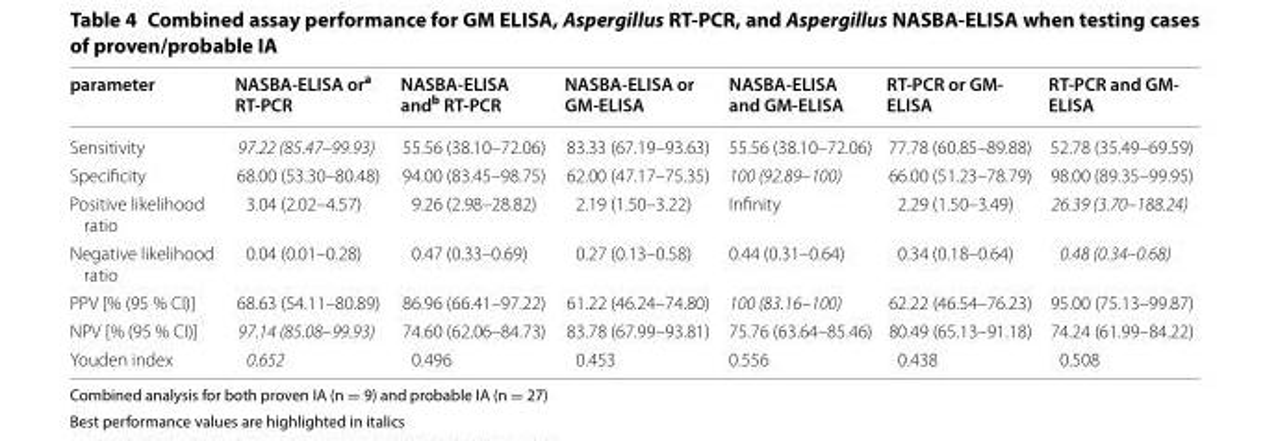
<table><thead><tr><td>parameter</td><td>NASBA‑ELISA or<sup>a</sup> RT‑PCR</td><td>NASBA‑ELISA and<sup>b</sup> RT‑PCR</td><td>NASBA‑ELISA or GM‑ELISA</td><td>NASBA‑ELISA and GM‑ELISA</td><td>RT‑PCR or GM‑ ELISA</td><td>RT‑PCR and GM‑ ELISA</td></tr></thead><tbody><tr><td>Sensitivity</td><td>97.22 (85.47–99.93)</td><td>55.56 (38.10–72.06)</td><td>83.33 (67.19–93.63)</td><td>55.56 (38.10–72.06)</td><td>77.78 (60.85–89.88)</td><td>52.78 (35.49–69.59)</td></tr><tr><td>Specificity</td><td>68.00 (53.30–80.48)</td><td>94.00 (83.45–98.75)</td><td>62.00 (47.17–75.35)</td><td>100 (92.89–100)</td><td>66.00 (51.23–78.79)</td><td>98.00 (89.35–99.95)</td></tr><tr><td>Positive likelihood ratio</td><td>3.04 (2.02–4.57)</td><td>9.26 (2.98–28.82)</td><td>2.19 (1.50–3.22)</td><td>Infinity</td><td>2.29 (1.50–3.49)</td><td>26.39 (3.70–188.24)</td></tr><tr><td>Negative likelihood ratio</td><td>0.04 (0.01–0.28)</td><td>0.47 (0.33–0.69)</td><td>0.27 (0.13–0.58)</td><td>0.44 (0.31–0.64)</td><td>0.34 (0.18–0.64)</td><td>0.48 (0.34–0.68)</td></tr><tr><td>PPV [% (95 % CI)]</td><td>68.63 (54.11–80.89)</td><td>86.96 (66.41–97.22)</td><td>61.22 (46.24–74.80)</td><td>100 (83.16–100)</td><td>62.22 (46.54–76.23)</td><td>95.00 (75.13–99.87)</td></tr><tr><td>NPV [% (95 % CI)]</td><td>97.14 (85.08–99.93)</td><td>74.60 (62.06–84.73)</td><td>83.78 (67.99–93.81)</td><td>75.76 (63.64–85.46)</td><td>80.49 (65.13–91.18)</td><td>74.24 (61.99–84.22)</td></tr><tr><td>Youden index</td><td>0.652</td><td>0.496</td><td>0.453</td><td>0.556</td><td>0.438</td><td>0.508</td></tr></tbody></table>